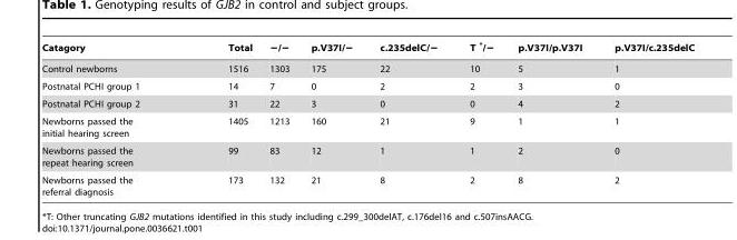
<table><thead><tr><td>Catagory</td><td>Total</td><td>−/−</td><td>p.V37I/−</td><td>c.235delC/−</td><td>T */−</td><td>p.V37I/p.V37I</td><td>p.V37I/c.235delC</td></tr></thead><tbody><tr><td>Control newborns</td><td>1516</td><td>1303</td><td>175</td><td>22</td><td>10</td><td>5</td><td>1</td></tr><tr><td>Postnatal PCHI group 1</td><td>14</td><td>7</td><td>0</td><td>2</td><td>2</td><td>3</td><td>0</td></tr><tr><td>Postnatal PCHI group 2</td><td>31</td><td>22</td><td>3</td><td>0</td><td>0</td><td>4</td><td>2</td></tr><tr><td>Newborns passed the initial hearing screen</td><td>1405</td><td>1213</td><td>160</td><td>21</td><td>9</td><td>1</td><td>1</td></tr><tr><td>Newborns passed the repeat hearing screen</td><td>99</td><td>83</td><td>12</td><td>1</td><td>1</td><td>2</td><td>0</td></tr><tr><td>Newborns passed the referral diagnosis</td><td>173</td><td>132</td><td>21</td><td>8</td><td>2</td><td>8</td><td>2</td></tr></tbody></table>